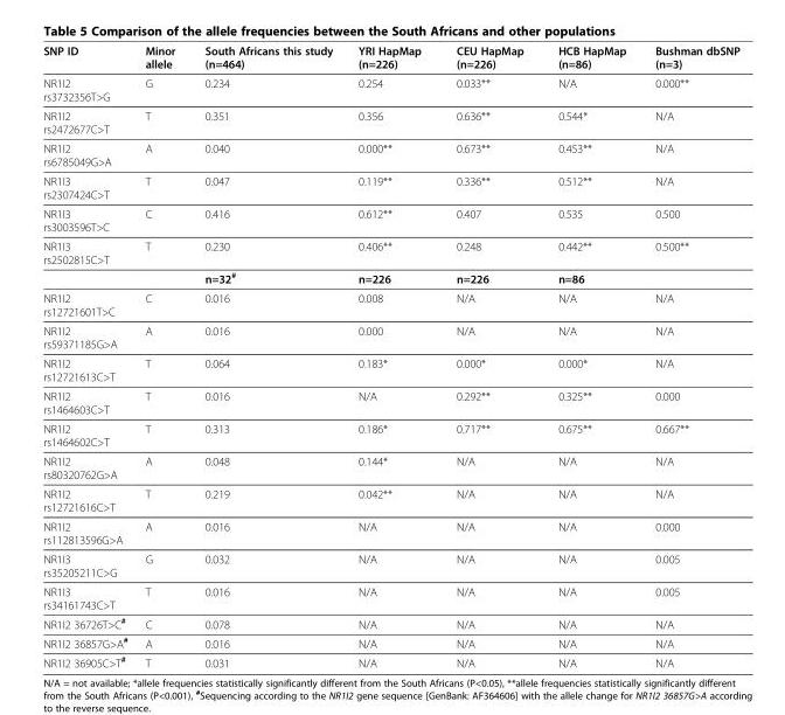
<table><thead><tr><td>SNP ID</td><td>Minor allele</td><td>South Africans this study (n=464)</td><td>YRI HapMap (n=226)</td><td>CEU HapMap (n=226)</td><td>HCB HapMap (n=86)</td><td>Bushman dbSNP (n=3)</td></tr></thead><tbody><tr><td>NR1I2 rs3732356T&gt;G</td><td>G</td><td>0.234</td><td>0.254</td><td>0.033**</td><td>N/A</td><td>0.000**</td></tr><tr><td>NR1I2 rs2472677C&gt;T</td><td>T</td><td>0.351</td><td>0.356</td><td>0.636**</td><td>0.544*</td><td>N/A</td></tr><tr><td>NR1I2 rs6785049G&gt;A</td><td>A</td><td>0.040</td><td>0.000**</td><td>0.673**</td><td>0.453**</td><td>N/A</td></tr><tr><td>NR1I3 rs2307424C&gt;T</td><td>T</td><td>0.047</td><td>0.119**</td><td>0.336**</td><td>0.512**</td><td>N/A</td></tr><tr><td>NR1I3 rs3003596T&gt;C</td><td>C</td><td>0.416</td><td>0.612**</td><td>0.407</td><td>0.535</td><td>0.500</td></tr><tr><td rowspan="2">NR1I3 rs2502815C&gt;T</td><td>T</td><td>0.230</td><td>0.406**</td><td>0.248</td><td>0.442**</td><td>0.500**</td></tr><tr><td></td><td>n=32<sup>#</sup></td><td>n=226</td><td>n=226</td><td>n=86</td><td></td></tr><tr><td>NR1I2 rs12721601T&gt;C</td><td>C</td><td>0.016</td><td>0.008</td><td>N/A</td><td>N/A</td><td>N/A</td></tr><tr><td>NR1I2 rs59371185G&gt;A</td><td>A</td><td>0.016</td><td>0.000</td><td>N/A</td><td>N/A</td><td>N/A</td></tr><tr><td>NR1I2 rs12721613C&gt;T</td><td>T</td><td>0.064</td><td>0.183*</td><td>0.000*</td><td>0.000*</td><td>N/A</td></tr><tr><td>NR1I2 rs1464603C&gt;T</td><td>T</td><td>0.016</td><td>N/A</td><td>0.292**</td><td>0.325**</td><td>0.000</td></tr><tr><td>NR1I2 rs1464602C&gt;T</td><td>T</td><td>0.313</td><td>0.186*</td><td>0.717**</td><td>0.675**</td><td>0.667**</td></tr><tr><td>NR1I2 rs80320762G&gt;A</td><td>A</td><td>0.048</td><td>0.144*</td><td>N/A</td><td>N/A</td><td>N/A</td></tr><tr><td>NR1I2 rs12721616C&gt;T</td><td>T</td><td>0.219</td><td>0.042**</td><td>N/A</td><td>N/A</td><td>N/A</td></tr><tr><td>NR1I2 rs112813596G&gt;A</td><td>A</td><td>0.016</td><td>N/A</td><td>N/A</td><td>N/A</td><td>0.000</td></tr><tr><td>NR1I3 rs35205211C&gt;G</td><td>G</td><td>0.032</td><td>N/A</td><td>N/A</td><td>N/A</td><td>0.005</td></tr><tr><td>NR1I3 rs34161743C&gt;T</td><td>T</td><td>0.016</td><td>N/A</td><td>N/A</td><td>N/A</td><td>0.005</td></tr><tr><td>NR1I2 36726T&gt;C<sup>#</sup></td><td>C</td><td>0.078</td><td>N/A</td><td>N/A</td><td>N/A</td><td>N/A</td></tr><tr><td>NR1I2 36857G&gt;A<sup>#</sup></td><td>A</td><td>0.016</td><td>N/A</td><td>N/A</td><td>N/A</td><td>N/A</td></tr><tr><td>NR1I2 36905C&gt;T<sup>#</sup></td><td>T</td><td>0.031</td><td>N/A</td><td>N/A</td><td>N/A</td><td>N/A</td></tr></tbody></table>